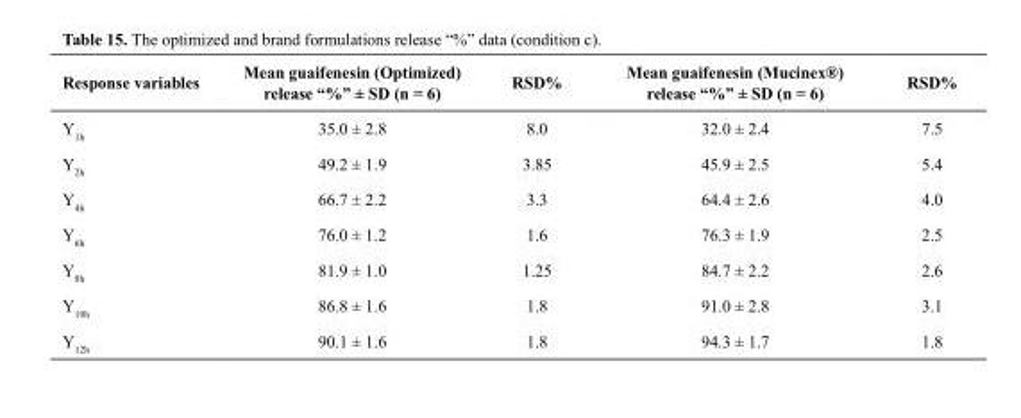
<table><thead><tr><td>Response variables</td><td>Mean guaifenesin (Optimized) release “%” ± SD (n = 6)</td><td>RSD%</td><td>Mean guaifenesin (Mucinex<sup>®</sup>) release “%” ± SD (n = 6)</td><td>RSD%</td></tr></thead><tbody><tr><td>Y<sub>1h</sub></td><td>35.0 ± 2.8</td><td>8.0</td><td>32.0 ± 2.4</td><td>7.5</td></tr><tr><td>Y<sub>2h</sub></td><td>49.2 ± 1.9</td><td>3.85</td><td>45.9 ± 2.5</td><td>5.4</td></tr><tr><td>Y<sub>4h</sub></td><td>66.7 ± 2.2</td><td>3.3</td><td>64.4 ± 2.6</td><td>4.0</td></tr><tr><td>Y<sub>6h</sub></td><td>76.0 ± 1.2</td><td>1.6</td><td>76.3 ± 1.9</td><td>2.5</td></tr><tr><td>Y<sub>8h</sub></td><td>81.9 ± 1.0</td><td>1.25</td><td>84.7 ± 2.2</td><td>2.6</td></tr><tr><td>Y<sub>10h</sub></td><td>86.8 ± 1.6</td><td>1.8</td><td>91.0 ± 2.8</td><td>3.1</td></tr><tr><td>Y<sub>12h</sub></td><td>90.1 ± 1.6</td><td>1.8</td><td>94.3 ± 1.7</td><td>1.8</td></tr></tbody></table>